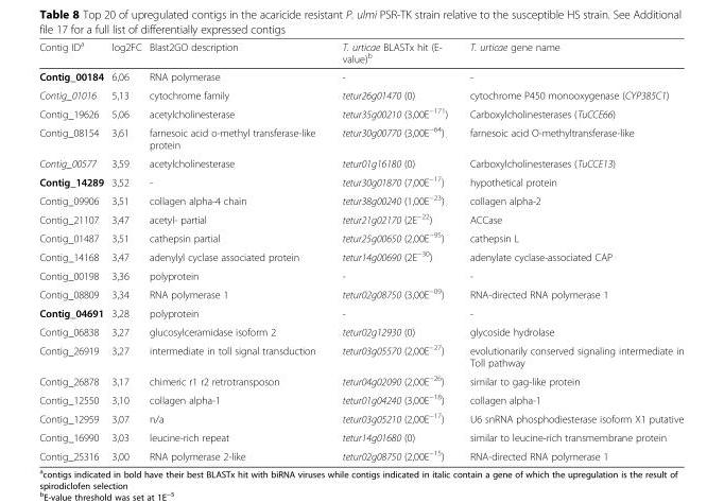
<table><thead><tr><td>Contig ID<sup>a</sup></td><td>log2FC</td><td>Blast2GO description</td><td>T. urticae BLASTx hit (E- value)<sup>b</sup></td><td>T. urticae gene name</td></tr></thead><tbody><tr><td>Contig_00184</td><td>6,06</td><td>RNA polymerase</td><td>-</td><td>-</td></tr><tr><td>Contig_01016</td><td>5,13</td><td>cytochrome family</td><td>tetur26g01470 (0)</td><td>cytochrome P450 monooxygenase (CYP385C1)</td></tr><tr><td>Contig_19626</td><td>5,06</td><td>acetylcholinesterase</td><td>tetur35g00210 (3,00E<sup>−171</sup>)</td><td>Carboxylcholinesterases (TuCCE66)</td></tr><tr><td>Contig_08154</td><td>3,61</td><td>farnesoic acid o-methyl transferase-like protein</td><td>tetur30g00770 (3,00E<sup>−64</sup>)</td><td>farnesoic acid O-methyltransferase-like</td></tr><tr><td>Contig_00577</td><td>3,59</td><td>acetylcholinesterase</td><td>tetur01g16180 (0)</td><td>Carboxylcholinesterases (TuCCE13)</td></tr><tr><td>Contig_14289</td><td>3,52</td><td>-</td><td>tetur30g01870 (7,00E<sup>−17</sup>)</td><td>hypothetical protein</td></tr><tr><td>Contig_09906</td><td>3,51</td><td>collagen alpha-4 chain</td><td>tetur38g00240 (1,00E<sup>−23</sup>)</td><td>collagen alpha-2</td></tr><tr><td>Contig_21107</td><td>3,47</td><td>acetyl- partial</td><td>tetur21g02170 (2E<sup>−22</sup>)</td><td>ACCase</td></tr><tr><td>Contig_01487</td><td>3,51</td><td>cathepsin partial</td><td>tetur25g00650 (2,00E<sup>−95</sup>)</td><td>cathepsin L</td></tr><tr><td>Contig_14168</td><td>3,47</td><td>adenylyl cyclase associated protein</td><td>tetur14g00690 (2E<sup>−30</sup>)</td><td>adenylate cyclase-associated CAP</td></tr><tr><td>Contig_00198</td><td>3,36</td><td>polyprotein</td><td>-</td><td>-</td></tr><tr><td>Contig_08809</td><td>3,34</td><td>RNA polymerase 1</td><td>tetur02g08750 (3,00E<sup>−09</sup>)</td><td>RNA-directed RNA polymerase 1</td></tr><tr><td>Contig_04691</td><td>3,28</td><td>polyprotein</td><td>-</td><td>-</td></tr><tr><td>Contig_06838</td><td>3,27</td><td>glucosylceramidase isoform 2</td><td>tetur02g12930 (0)</td><td>glycoside hydrolase</td></tr><tr><td>Contig_26919</td><td>3,27</td><td>intermediate in toll signal transduction</td><td>tetur03g05570 (2,00E<sup>−27</sup>)</td><td>evolutionarily conserved signaling intermediate in Toll pathway</td></tr><tr><td>Contig_26878</td><td>3,17</td><td>chimeric r1 r2 retrotransposon</td><td>tetur04g02090 (2,00E<sup>−26</sup>)</td><td>similar to gag-like protein</td></tr><tr><td>Contig_12550</td><td>3,10</td><td>collagen alpha-1</td><td>tetur01g04240 (3,00E<sup>−18</sup>)</td><td>collagen alpha-1</td></tr><tr><td>Contig_12959</td><td>3,07</td><td>n/a</td><td>tetur03g05210 (2,00E<sup>−17</sup>)</td><td>U6 snRNA phosphodiesterase isoform X1 putative</td></tr><tr><td>Contig_16990</td><td>3,03</td><td>leucine-rich repeat</td><td>tetur14g01680 (0)</td><td>similar to leucine-rich transmembrane protein</td></tr><tr><td>Contig_25316</td><td>3,00</td><td>RNA polymerase 2-like</td><td>tetur02g08750 (2,00E<sup>−15</sup>)</td><td>RNA-directed RNA polymerase 1</td></tr></tbody></table>